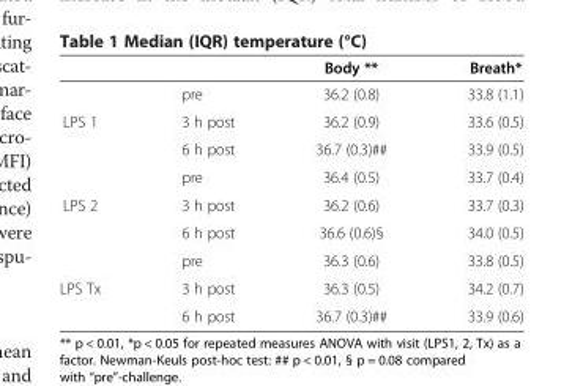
<table><thead><tr><td></td><td></td><td>Body **</td><td>Breath*</td></tr></thead><tbody><tr><td rowspan="3">LPS 1</td><td>pre</td><td>36.2 (0.8)</td><td>33.8 (1.1)</td></tr><tr><td>3 h post</td><td>36.2 (0.9)</td><td>33.6 (0.5)</td></tr><tr><td>6 h post</td><td>36.7 (0.3)##</td><td>33.9 (0.5)</td></tr><tr><td rowspan="3">LPS 2</td><td>pre</td><td>36.4 (0.5)</td><td>33.7 (0.4)</td></tr><tr><td>3 h post</td><td>36.2 (0.6)</td><td>33.7 (0.3)</td></tr><tr><td>6 h post</td><td>36.6 (0.6)§</td><td>34.0 (0.5)</td></tr><tr><td rowspan="3">LPS Tx</td><td>pre</td><td>36.3 (0.6)</td><td>33.8 (0.5)</td></tr><tr><td>3 h post</td><td>36.3 (0.5)</td><td>34.2 (0.7)</td></tr><tr><td>6 h post</td><td>36.7 (0.3)##</td><td>33.9 (0.6)</td></tr></tbody></table>